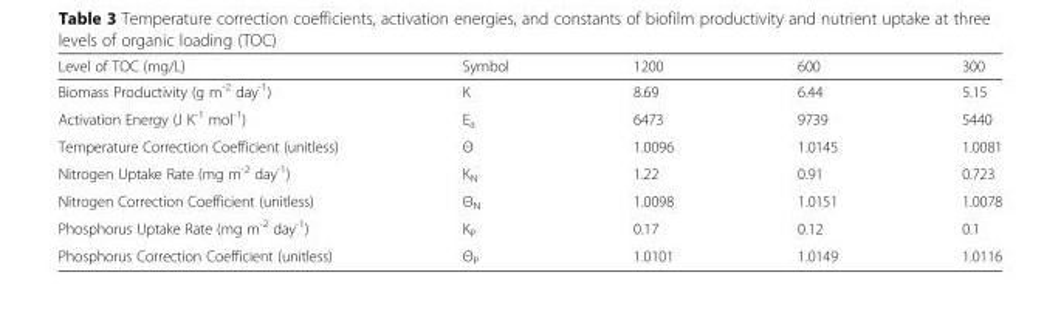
<table><thead><tr><td>Level of TOC (mg/L)</td><td>Symbol</td><td>1200</td><td>600</td><td>300</td></tr></thead><tbody><tr><td>Biomass Productivity (g m<sup>-2</sup> day<sup>-1</sup>)</td><td>K</td><td>8.69</td><td>6.44</td><td>5.15</td></tr><tr><td>Activation Energy (J K<sup>-1</sup> mol<sup>-1</sup>)</td><td>E<sub>a</sub></td><td>6473</td><td>9739</td><td>5440</td></tr><tr><td>Temperature Correction Coefficient (unitless)</td><td>Θ</td><td>1.0096</td><td>1.0145</td><td>1.0081</td></tr><tr><td>Nitrogen Uptake Rate (mg m<sup>-2</sup> day<sup>-1</sup>)</td><td>K<sub>N</sub></td><td>1.22</td><td>0.91</td><td>0.723</td></tr><tr><td>Nitrogen Correction Coefficient (unitless)</td><td>Θ<sub>N</sub></td><td>1.0098</td><td>1.0151</td><td>1.0078</td></tr><tr><td>Phosphorus Uptake Rate (mg m<sup>-2</sup> day<sup>-1</sup>)</td><td>K<sub>P</sub></td><td>0.17</td><td>0.12</td><td>0.1</td></tr><tr><td>Phosphorus Correction Coefficient (unitless)</td><td>Θ<sub>P</sub></td><td>1.0101</td><td>1.0149</td><td>1.0116</td></tr></tbody></table>